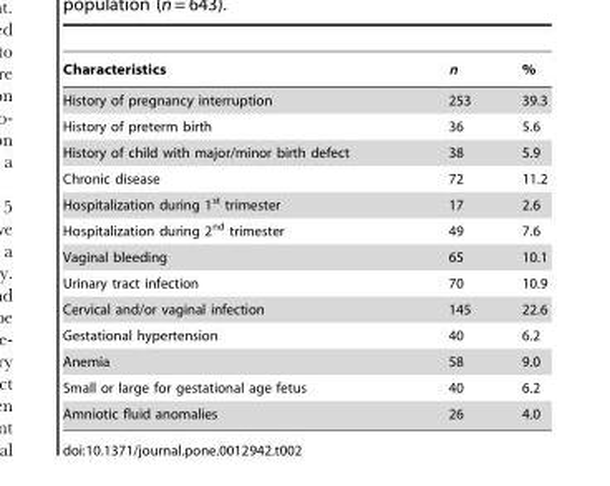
<table><thead><tr><td>Characteristics</td><td>n</td><td>%</td></tr></thead><tbody><tr><td>History of pregnancy interruption</td><td>253</td><td>39.3</td></tr><tr><td>History of preterm birth</td><td>36</td><td>5.6</td></tr><tr><td>History of child with major/minor birth defect</td><td>38</td><td>5.9</td></tr><tr><td>Chronic disease</td><td>72</td><td>11.2</td></tr><tr><td>Hospitalization during 1<sup>st</sup> trimester</td><td>17</td><td>2.6</td></tr><tr><td>Hospitalization during 2<sup>nd</sup> trimester</td><td>49</td><td>7.6</td></tr><tr><td>Vaginal bleeding</td><td>65</td><td>10.1</td></tr><tr><td>Urinary tract infection</td><td>70</td><td>10.9</td></tr><tr><td>Cervical and/or vaginal infection</td><td>145</td><td>22.6</td></tr><tr><td>Gestational hypertension</td><td>40</td><td>6.2</td></tr><tr><td>Anemia</td><td>58</td><td>9.0</td></tr><tr><td>Small or large for gestational age fetus</td><td>40</td><td>6.2</td></tr><tr><td>Amniotic fluid anomalies</td><td>26</td><td>4.0</td></tr></tbody></table>